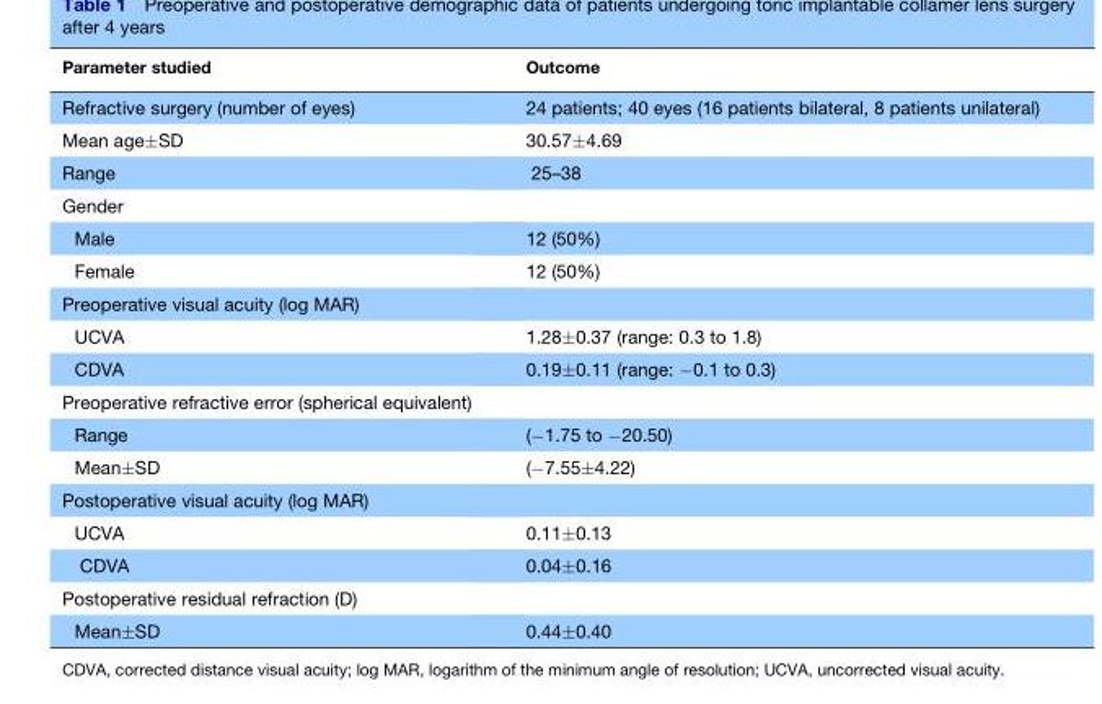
<table><thead><tr><td>Parameter studied</td><td>Outcome</td></tr></thead><tbody><tr><td>Refractive surgery (number of eyes)</td><td>24 patients; 40 eyes (16 patients bilateral, 8 patients unilateral)</td></tr><tr><td>Mean age±SD</td><td>30.57±4.69</td></tr><tr><td>Range</td><td>25–38</td></tr><tr><td colspan="2">Gender</td></tr><tr><td>Male</td><td>12 (50%)</td></tr><tr><td>Female</td><td>12 (50%)</td></tr><tr><td colspan="2">Preoperative visual acuity (log MAR)</td></tr><tr><td>UCVA</td><td>1.28±0.37 (range: 0.3 to 1.8)</td></tr><tr><td>CDVA</td><td>0.19±0.11 (range: −0.1 to 0.3)</td></tr><tr><td colspan="2">Preoperative refractive error (spherical equivalent)</td></tr><tr><td>Range</td><td>(−1.75 to −20.50)</td></tr><tr><td>Mean±SD</td><td>(−7.55±4.22)</td></tr><tr><td colspan="2">Postoperative visual acuity (log MAR)</td></tr><tr><td>UCVA</td><td>0.11±0.13</td></tr><tr><td>CDVA</td><td>0.04±0.16</td></tr><tr><td colspan="2">Postoperative residual refraction (D)</td></tr><tr><td>Mean±SD</td><td>0.44±0.40</td></tr></tbody></table>